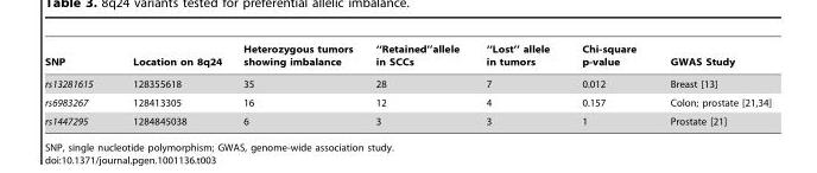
<table><thead><tr><td>SNP</td><td>Location on 8q24</td><td>Heterozygous tumors showing imbalance</td><td>‘‘Retained’’allele in SCCs</td><td>‘‘Lost’’ allele in tumors</td><td>Chi-square p-value</td><td>GWAS Study</td></tr></thead><tbody><tr><td>rs13281615</td><td>128355618</td><td>35</td><td>28</td><td>7</td><td>0.012</td><td>Breast [13]</td></tr><tr><td>rs6983267</td><td>128413305</td><td>16</td><td>12</td><td>4</td><td>0.157</td><td>Colon; prostate [21,34]</td></tr><tr><td>rs1447295</td><td>1284845038</td><td>6</td><td>3</td><td>3</td><td>1</td><td>Prostate [21]</td></tr></tbody></table>